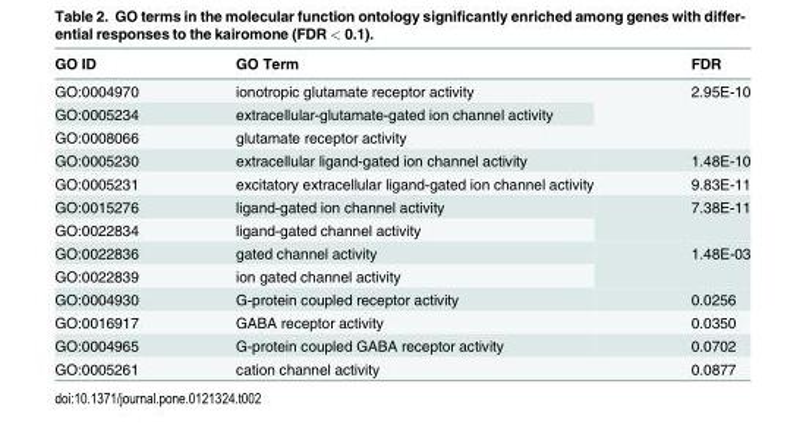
<table><thead><tr><td>GO ID</td><td>GO Term</td><td>FDR</td></tr></thead><tbody><tr><td>GO:0004970</td><td>ionotropic glutamate receptor activity</td><td rowspan="3">2.95E-10</td></tr><tr><td>GO:0005234</td><td>extracellular-glutamate-gated ion channel activity</td></tr><tr><td>GO:0008066</td><td>glutamate receptor activity</td></tr><tr><td>GO:0005230</td><td>extracellular ligand-gated ion channel activity</td><td>1.48E-10</td></tr><tr><td>GO:0005231</td><td>excitatory extracellular ligand-gated ion channel activity</td><td>9.83E-11</td></tr><tr><td>GO:0015276</td><td>ligand-gated ion channel activity</td><td rowspan="2">7.38E-11</td></tr><tr><td>GO:0022834</td><td>ligand-gated channel activity</td></tr><tr><td>GO:0022836</td><td>gated channel activity</td><td rowspan="2">1.48E-03</td></tr><tr><td>GO:0022839</td><td>ion gated channel activity</td></tr><tr><td>GO:0004930</td><td>G-protein coupled receptor activity</td><td>0.0256</td></tr><tr><td>GO:0016917</td><td>GABA receptor activity</td><td>0.0350</td></tr><tr><td>GO:0004965</td><td>G-protein coupled GABA receptor activity</td><td>0.0702</td></tr><tr><td>GO:0005261</td><td>cation channel activity</td><td>0.0877</td></tr></tbody></table>